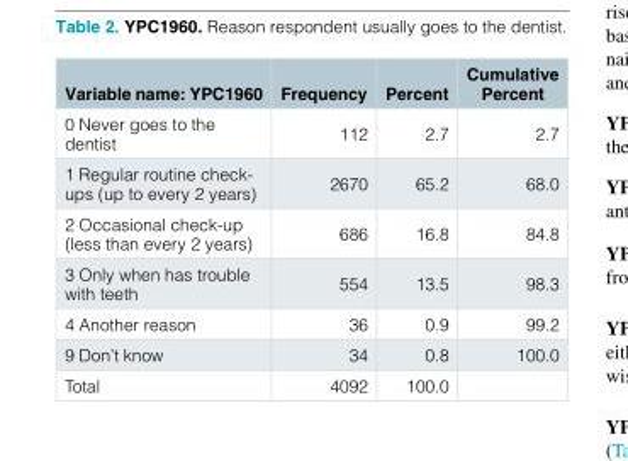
<table><thead><tr><td>Variable name: YPC1960</td><td>Frequency</td><td>Percent</td><td>Cumulative Percent</td></tr></thead><tbody><tr><td>0 Never goes to the dentist</td><td>112</td><td>2.7</td><td>2.7</td></tr><tr><td>1 Regular routine check- ups (up to every 2 years)</td><td>2670</td><td>65.2</td><td>68.0</td></tr><tr><td>2 Occasional check-up (less than every 2 years)</td><td>686</td><td>16.8</td><td>84.8</td></tr><tr><td>3 Only when has trouble with teeth</td><td>554</td><td>13.5</td><td>98.3</td></tr><tr><td>4 Another reason</td><td>36</td><td>0.9</td><td>99.2</td></tr><tr><td>9 Don’t know</td><td>34</td><td>0.8</td><td>100.0</td></tr><tr><td>Total</td><td>4092</td><td>100.0</td><td></td></tr></tbody></table>